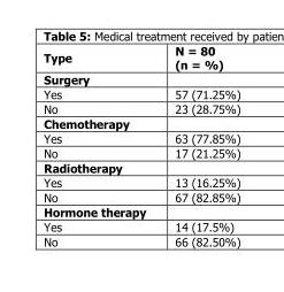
<table><thead><tr><td>Type</td><td>N = 80 (n = %)</td></tr></thead><tbody><tr><td colspan="2">Surgery</td></tr><tr><td>Yes</td><td>57 (71.25%)</td></tr><tr><td>No</td><td>23 (28.75%)</td></tr><tr><td colspan="2">Chemotherapy</td></tr><tr><td>Yes</td><td>63 (77.85%)</td></tr><tr><td>No</td><td>17 (21.25%)</td></tr><tr><td colspan="2">Radiotherapy</td></tr><tr><td>Yes</td><td>13 (16.25%)</td></tr><tr><td>No</td><td>67 (82.85%)</td></tr><tr><td colspan="2">Hormone therapy</td></tr><tr><td>Yes</td><td>14 (17.5%)</td></tr><tr><td>No</td><td>66 (82.50%)</td></tr></tbody></table>